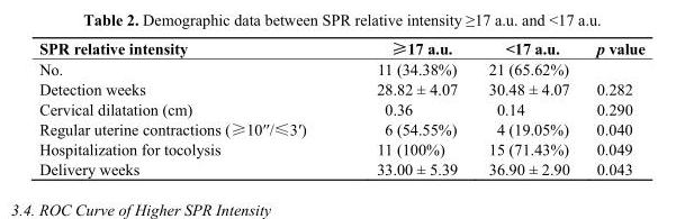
<table><thead><tr><td>SPR relative intensity</td><td>≥17 a.u.</td><td>&lt;17 a.u.</td><td>p value</td></tr></thead><tbody><tr><td>No.</td><td>11 (34.38%)</td><td>21 (65.62%)</td><td></td></tr><tr><td>Detection weeks</td><td>28.82 ± 4.07</td><td>30.48 ± 4.07</td><td>0.282</td></tr><tr><td>Cervical dilatation (cm)</td><td>0.36</td><td>0.14</td><td>0.290</td></tr><tr><td>Regular uterine contractions (≥10′′/≤3′)</td><td>6 (54.55%)</td><td>4 (19.05%)</td><td>0.040</td></tr><tr><td>Hospitalization for tocolysis</td><td>11 (100%)</td><td>15 (71.43%)</td><td>0.049</td></tr><tr><td>Delivery weeks</td><td>33.00 ± 5.39</td><td>36.90 ± 2.90</td><td>0.043</td></tr></tbody></table>